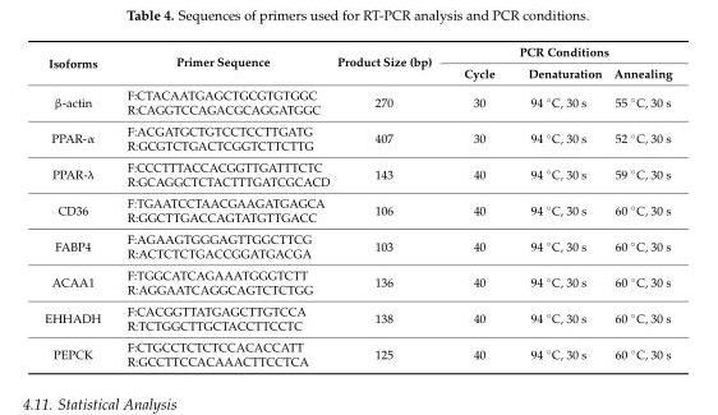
<table><thead><tr><td rowspan="2">Isoforms</td><td rowspan="2">Primer Sequence</td><td rowspan="2">Product Size (bp)</td><td colspan="3">PCR Conditions</td></tr><tr><td>Cycle</td><td>Denaturation</td><td>Annealing</td></tr></thead><tbody><tr><td>β-actin</td><td>F:CTACAATGAGCTGCGTGTGGC R:CAGGTCCAGACGCAGGATGGC</td><td>270</td><td>30</td><td>94 ◦C, 30 s</td><td>55 ◦C, 30 s</td></tr><tr><td>PPAR-α</td><td>F:ACGATGCTGTCCTCCTTGATG R:GCGTCTGACTCGGTCTTCTTG</td><td>407</td><td>30</td><td>94 ◦C, 30 s</td><td>52 ◦C, 30 s</td></tr><tr><td>PPAR-λ</td><td>F:CCCTTTACCACGGTTGATTTCTC R:GCAGGCTCTACTTTGATCGCACD</td><td>143</td><td>40</td><td>94 ◦C, 30 s</td><td>59 ◦C, 30 s</td></tr><tr><td>CD36</td><td>F:TGAATCCTAACGAAGATGAGCA R:GGCTTGACCAGTATGTTGACC</td><td>106</td><td>40</td><td>94 ◦C, 30 s</td><td>60 ◦C, 30 s</td></tr><tr><td>FABP4</td><td>F:AGAAGTGGGAGTTGGCTTCG R:ACTCTCTGACCGGATGACGA</td><td>103</td><td>40</td><td>94 ◦C, 30 s</td><td>60 ◦C, 30 s</td></tr><tr><td>ACAA1</td><td>F:TGGCATCAGAAATGGGTCTT R:AGGAATCAGGCAGTCTCTGG</td><td>136</td><td>40</td><td>94 ◦C, 30 s</td><td>60 ◦C, 30 s</td></tr><tr><td>EHHADH</td><td>F:CACGGTTATGAGCTTGTCCA R:TCTGGCTTGCTACCTTCCTC</td><td>138</td><td>40</td><td>94 ◦C, 30 s</td><td>60 ◦C, 30 s</td></tr><tr><td>PEPCK</td><td>F:CTGCCTCTCTCCACACCATT R:GCCTTCCACAAACTTCCTCA</td><td>125</td><td>40</td><td>94 ◦C, 30 s</td><td>60 ◦C, 30 s</td></tr></tbody></table>